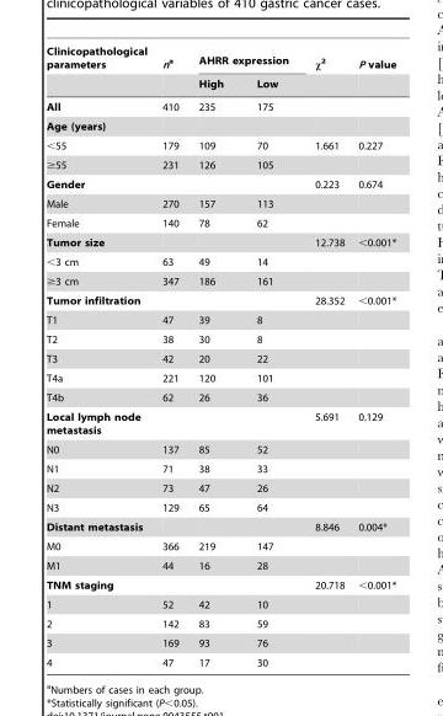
<table><thead><tr><td rowspan="2">Clinicopathological parameters</td><td rowspan="2">na</td><td colspan="2">AHRR expression</td><td rowspan="2">x2</td><td rowspan="2">P value</td></tr><tr><td>High</td><td>Low</td></tr></thead><tbody><tr><td>All</td><td>410</td><td>235</td><td>175</td><td></td><td></td></tr><tr><td colspan="6">Age (years)</td></tr><tr><td>&lt;55</td><td>179</td><td>109</td><td>70</td><td>1.661</td><td>0.227</td></tr><tr><td>≥55</td><td>231</td><td>126</td><td>105</td><td></td><td></td></tr><tr><td>Gender</td><td></td><td></td><td></td><td>0.223</td><td>0.674</td></tr><tr><td>Male</td><td>270</td><td>157</td><td>113</td><td></td><td></td></tr><tr><td>Female</td><td>140</td><td>78</td><td>62</td><td></td><td></td></tr><tr><td>Tumor size</td><td></td><td></td><td></td><td>12.738</td><td>&lt;0.001*</td></tr><tr><td>&lt;3 cm</td><td>63</td><td>49</td><td>14</td><td></td><td></td></tr><tr><td>≥3 cm</td><td>347</td><td>186</td><td>161</td><td></td><td></td></tr><tr><td>Tumor infiltration</td><td></td><td></td><td></td><td>28.352</td><td>&lt;0.001*</td></tr><tr><td>T1</td><td>47</td><td>39</td><td>8</td><td></td><td></td></tr><tr><td>T2</td><td>38</td><td>30</td><td>8</td><td></td><td></td></tr><tr><td>T3</td><td>42</td><td>20</td><td>22</td><td></td><td></td></tr><tr><td>T4a</td><td>221</td><td>120</td><td>101</td><td></td><td></td></tr><tr><td>T4b</td><td>62</td><td>26</td><td>36</td><td></td><td></td></tr><tr><td>Local lymph node metastasis</td><td></td><td></td><td></td><td>5.691</td><td>0.129</td></tr><tr><td>N0</td><td>137</td><td>85</td><td>52</td><td></td><td></td></tr><tr><td>N1</td><td>71</td><td>38</td><td>33</td><td></td><td></td></tr><tr><td>N2</td><td>73</td><td>47</td><td>26</td><td></td><td></td></tr><tr><td>N3</td><td>129</td><td>65</td><td>64</td><td></td><td></td></tr><tr><td>Distant metastasis</td><td></td><td></td><td></td><td>8.846</td><td>0.004*</td></tr><tr><td>M0</td><td>366</td><td>219</td><td>147</td><td></td><td></td></tr><tr><td>M1</td><td>44</td><td>16</td><td>28</td><td></td><td></td></tr><tr><td>TNM staging</td><td></td><td></td><td></td><td>20.718</td><td>&lt;0.001*</td></tr><tr><td>1</td><td>52</td><td>42</td><td>10</td><td></td><td></td></tr><tr><td>2</td><td>142</td><td>83</td><td>59</td><td></td><td></td></tr><tr><td>3</td><td>169</td><td>93</td><td>76</td><td></td><td></td></tr><tr><td>4</td><td>47</td><td>17</td><td>30</td><td></td><td></td></tr></tbody></table>